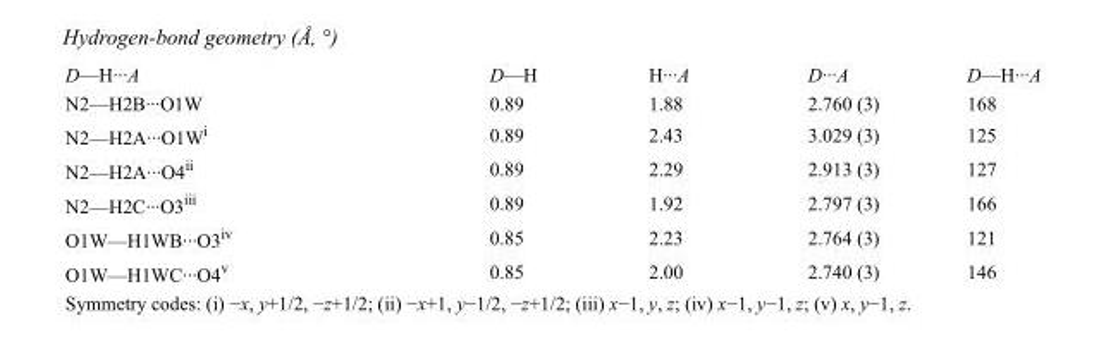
<table><tbody><tr><td>D—H···A</td><td>D—H</td><td>H···A</td><td>D···A</td><td>D—H···A</td></tr><tr><td>N2—H2B···O1W</td><td>0.89</td><td>1.88</td><td>2.760 (3)</td><td>168</td></tr><tr><td>N2—H2A···O1W<sup>i</sup></td><td>0.89</td><td>2.43</td><td>3.029 (3)</td><td>125</td></tr><tr><td>N2—H2A···O4<sup>ii</sup></td><td>0.89</td><td>2.29</td><td>2.913 (3)</td><td>127</td></tr><tr><td>N2—H2C···O3<sup>iii</sup></td><td>0.89</td><td>1.92</td><td>2.797 (3)</td><td>166</td></tr><tr><td>O1W—H1WB···O3<sup>iv</sup></td><td>0.85</td><td>2.23</td><td>2.764 (3)</td><td>121</td></tr><tr><td>O1W—H1WC···O4<sup>v</sup></td><td>0.85</td><td>2.00</td><td>2.740 (3)</td><td>146</td></tr></tbody></table>